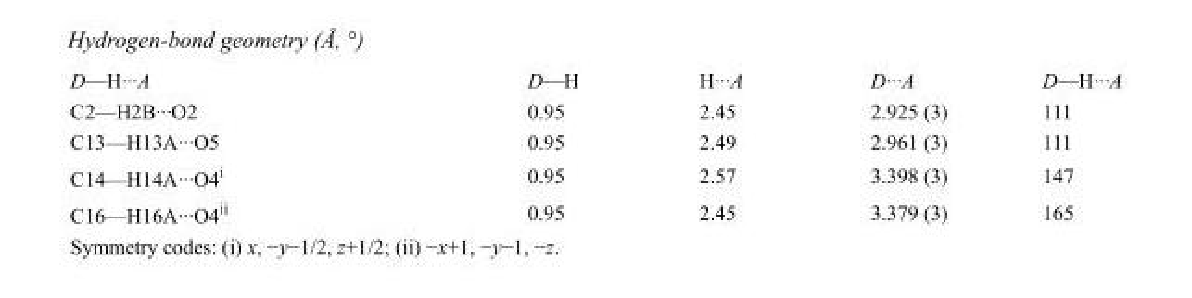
<table><tbody><tr><td>D—H···A</td><td>D—H</td><td>H···A</td><td>D···A</td><td>D—H···A</td></tr><tr><td>C2—H2B···O2</td><td>0.95</td><td>2.45</td><td>2.925 (3)</td><td>111</td></tr><tr><td>C13—H13A···O5</td><td>0.95</td><td>2.49</td><td>2.961 (3)</td><td>111</td></tr><tr><td>C14—H14A···O4<sup>i</sup></td><td>0.95</td><td>2.57</td><td>3.398 (3)</td><td>147</td></tr><tr><td>C16—H16A···O4<sup>ii</sup></td><td>0.95</td><td>2.45</td><td>3.379 (3)</td><td>165</td></tr></tbody></table>